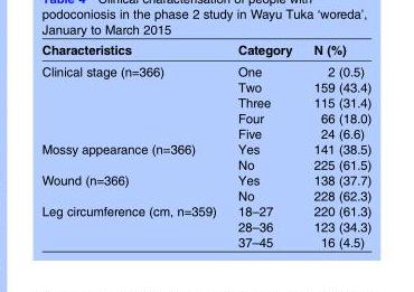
<table><thead><tr><td>Characteristics</td><td>Category</td><td>N (%)</td></tr></thead><tbody><tr><td rowspan="5">Clinical stage (n=366)</td><td>One</td><td>2 (0.5)</td></tr><tr><td>Two</td><td>159 (43.4)</td></tr><tr><td>Three</td><td>115 (31.4)</td></tr><tr><td>Four</td><td>66 (18.0)</td></tr><tr><td>Five</td><td>24 (6.6)</td></tr><tr><td rowspan="2">Mossy appearance (n=366)</td><td>Yes</td><td>141 (38.5)</td></tr><tr><td>No</td><td>225 (61.5)</td></tr><tr><td rowspan="2">Wound (n=366)</td><td>Yes</td><td>138 (37.7)</td></tr><tr><td>No</td><td>228 (62.3)</td></tr><tr><td rowspan="3">Leg circumference (cm, n=359)</td><td>18–27</td><td>220 (61.3)</td></tr><tr><td>28–36</td><td>123 (34.3)</td></tr><tr><td>37–45</td><td>16 (4.5)</td></tr></tbody></table>